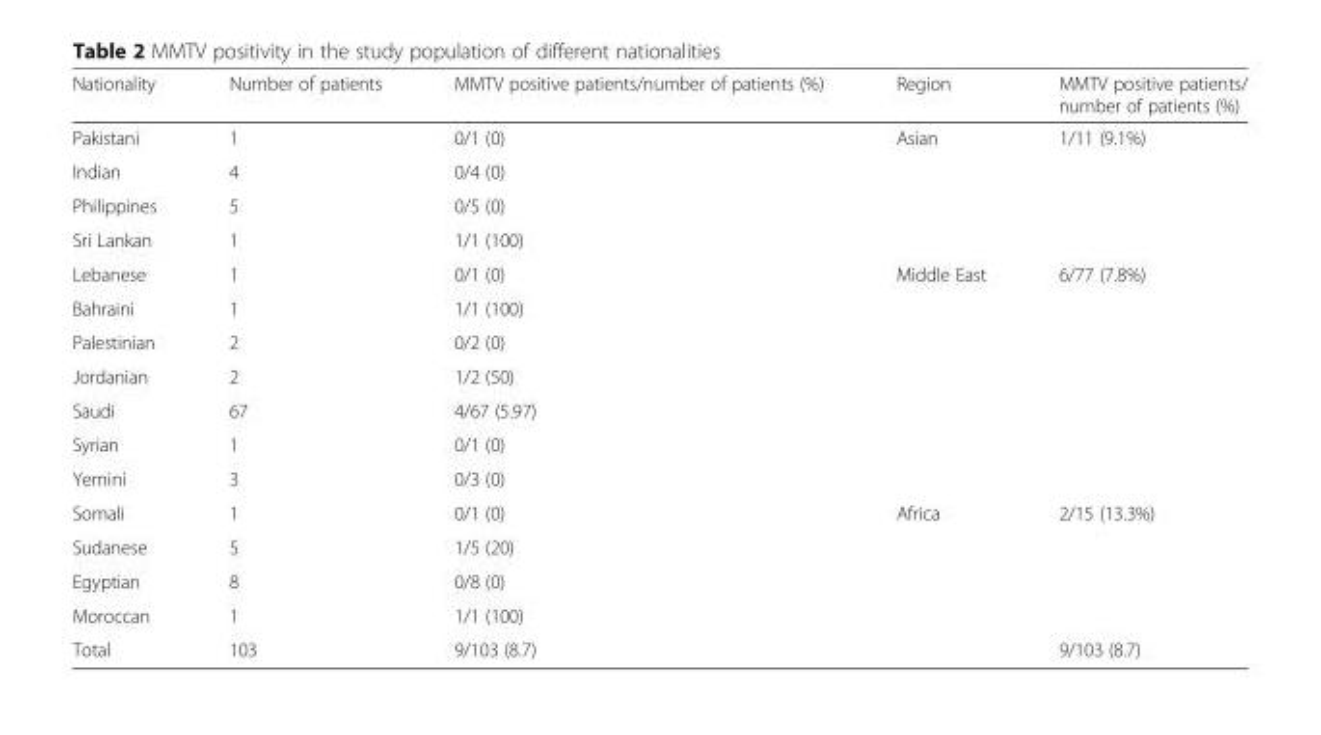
<table><thead><tr><td>Nationality</td><td>Number of patients</td><td>MMTV positive patients/number of patients (%)</td><td>Region</td><td>MMTV positive patients/ number of patients (%)</td></tr></thead><tbody><tr><td>Pakistani</td><td>1</td><td>0/1 (0)</td><td rowspan="4">Asian</td><td rowspan="4">1/11 (9.1%)</td></tr><tr><td>Indian</td><td>4</td><td>0/4 (0)</td></tr><tr><td>Philippines</td><td>5</td><td>0/5 (0)</td></tr><tr><td>Sri Lankan</td><td>1</td><td>1/1 (100)</td></tr><tr><td>Lebanese</td><td>1</td><td>0/1 (0)</td><td rowspan="7">Middle East</td><td rowspan="7">6/77 (7.8%)</td></tr><tr><td>Bahraini</td><td>1</td><td>1/1 (100)</td></tr><tr><td>Palestinian</td><td>2</td><td>0/2 (0)</td></tr><tr><td>Jordanian</td><td>2</td><td>1/2 (50)</td></tr><tr><td>Saudi</td><td>67</td><td>4/67 (5.97)</td></tr><tr><td>Syrian</td><td>1</td><td>0/1 (0)</td></tr><tr><td>Yemini</td><td>3</td><td>0/3 (0)</td></tr><tr><td>Somali</td><td>1</td><td>0/1 (0)</td><td rowspan="4">Africa</td><td rowspan="4">2/15 (13.3%)</td></tr><tr><td>Sudanese</td><td>5</td><td>1/5 (20)</td></tr><tr><td>Egyptian</td><td>8</td><td>0/8 (0)</td></tr><tr><td>Moroccan</td><td>1</td><td>1/1 (100)</td></tr><tr><td>Total</td><td>103</td><td>9/103 (8.7)</td><td></td><td>9/103 (8.7)</td></tr></tbody></table>